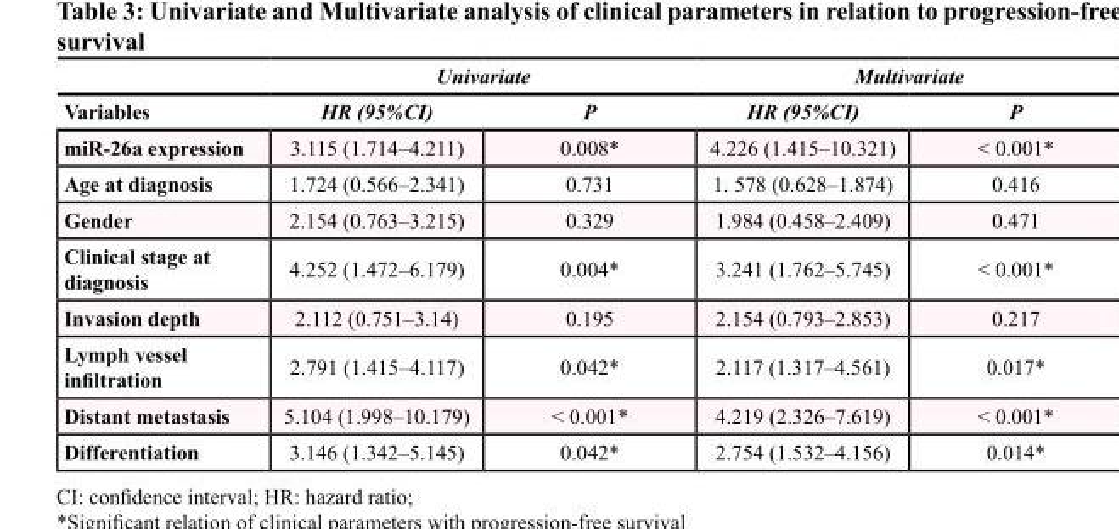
<table><thead><tr><td rowspan="2">Variables</td><td colspan="2">Univariate</td><td colspan="2">Multivariate</td></tr><tr><td>HR (95%CI)</td><td>P</td><td>HR (95%CI)</td><td>P</td></tr></thead><tbody><tr><td>miR-26a expression</td><td>3.115 (1.714–4.211)</td><td>0.008*</td><td>4.226 (1.415–10.321)</td><td>&lt; 0.001*</td></tr><tr><td>Age at diagnosis</td><td>1.724 (0.566–2.341)</td><td>0.731</td><td>1. 578 (0.628–1.874)</td><td>0.416</td></tr><tr><td>Gender</td><td>2.154 (0.763–3.215)</td><td>0.329</td><td>1.984 (0.458–2.409)</td><td>0.471</td></tr><tr><td>Clinical stage at diagnosis</td><td>4.252 (1.472–6.179)</td><td>0.004*</td><td>3.241 (1.762–5.745)</td><td>&lt; 0.001*</td></tr><tr><td>Invasion depth</td><td>2.112 (0.751–3.14)</td><td>0.195</td><td>2.154 (0.793–2.853)</td><td>0.217</td></tr><tr><td>Lymph vessel infiltration</td><td>2.791 (1.415–4.117)</td><td>0.042*</td><td>2.117 (1.317–4.561)</td><td>0.017*</td></tr><tr><td>Distant metastasis</td><td>5.104 (1.998–10.179)</td><td>&lt; 0.001*</td><td>4.219 (2.326–7.619)</td><td>&lt; 0.001*</td></tr><tr><td>Differentiation</td><td>3.146 (1.342–5.145)</td><td>0.042*</td><td>2.754 (1.532–4.156)</td><td>0.014*</td></tr></tbody></table>